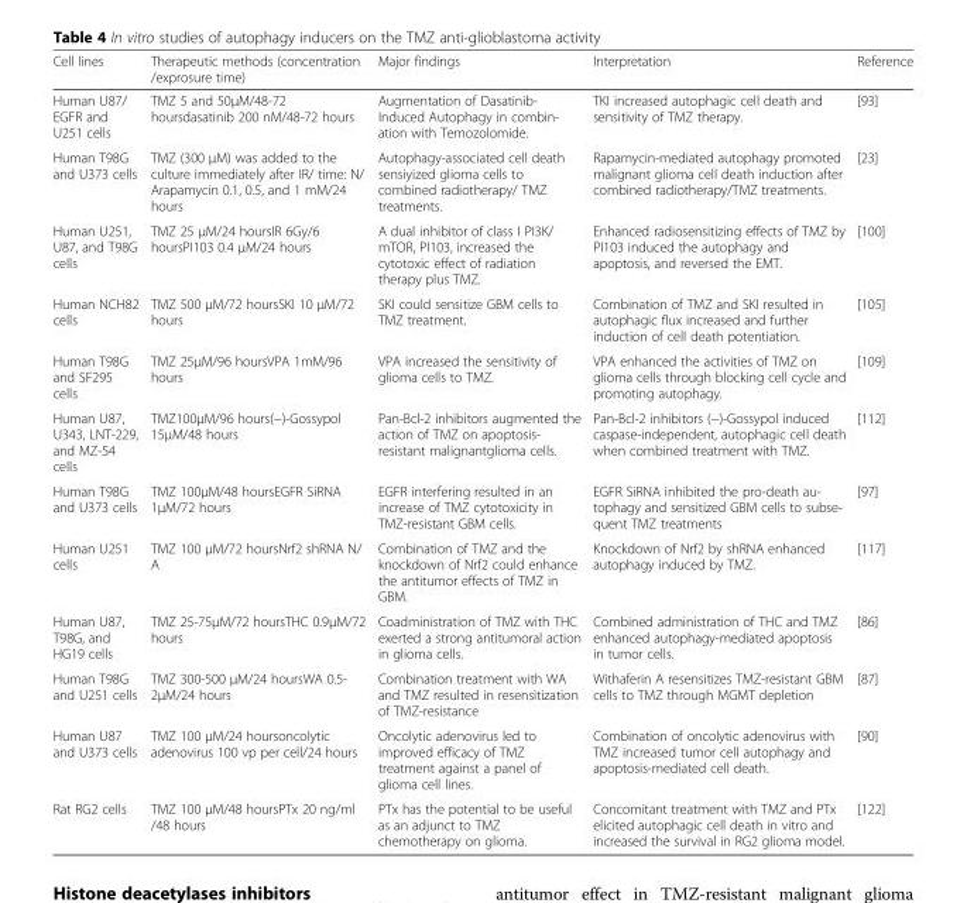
<table><thead><tr><td>Cell lines</td><td>Therapeutic methods (concentration /exprosure time)</td><td>Major findings</td><td>Interpretation</td><td>Reference</td></tr></thead><tbody><tr><td>Human U87/ EGFR and U251 cells</td><td>TMZ 5 and 50μM/48-72 hoursdasatinib 200 nM/48-72 hours</td><td>Augmentation of Dasatinib- Induced Autophagy in combin- ation with Temozolomide.</td><td>TKI increased autophagic cell death and sensitivity of TMZ therapy.</td><td>[93]</td></tr><tr><td>Human T98G and U373 cells</td><td>TMZ (300 μM) was added to the culture immediately after IR/ time: N/ Arapamycin 0.1, 0.5, and 1 mM/24 hours</td><td>Autophagy-associated cell death sensiyized glioma cells to combined radiotherapy/ TMZ treatments.</td><td>Rapamycin-mediated autophagy promoted malignant glioma cell death induction after combined radiotherapy/TMZ treatments.</td><td>[23]</td></tr><tr><td>Human U251, U87, and T98G cells</td><td>TMZ 25 μM/24 hoursIR 6Gy/6 hoursPI103 0.4 μM/24 hours</td><td>A dual inhibitor of class I PI3K/ mTOR, PI103, increased the cytotoxic effect of radiation therapy plus TMZ.</td><td>Enhanced radiosensitizing effects of TMZ by PI103 induced the autophagy and apoptosis, and reversed the EMT.</td><td>[100]</td></tr><tr><td>Human NCH82 cells</td><td>TMZ 500 μM/72 hoursSKI 10 μM/72 hours</td><td>SKI could sensitize GBM cells to TMZ treatment.</td><td>Combination of TMZ and SKI resulted in autophagic flux increased and further induction of cell death potentiation.</td><td>[105]</td></tr><tr><td>Human T98G and SF295 cells</td><td>TMZ 25μM/96 hoursVPA 1mM/96 hours</td><td>VPA increased the sensitivity of glioma cells to TMZ.</td><td>VPA enhanced the activities of TMZ on glioma cells through blocking cell cycle and promoting autophagy.</td><td>[109]</td></tr><tr><td>Human U87, U343, LNT-229, and MZ-54 cells</td><td>TMZ100μM/96 hours(−)-Gossypol 15μM/48 hours</td><td>Pan-Bcl-2 inhibitors augmented the action of TMZ on apoptosis- resistant malignantglioma cells.</td><td>Pan-Bcl-2 inhibitors (−)-Gossypol induced caspase-independent, autophagic cell death when combined treatment with TMZ.</td><td>[112]</td></tr><tr><td>Human T98G and U373 cells</td><td>TMZ 100μM/48 hoursEGFR SiRNA 1μM/72 hours</td><td>EGFR interfering resulted in an increase of TMZ cytotoxicity in TMZ-resistant GBM cells.</td><td>EGFR SiRNA inhibited the pro-death au- tophagy and sensitized GBM cells to subse- quent TMZ treatments</td><td>[97]</td></tr><tr><td>Human U251 cells</td><td>TMZ 100 μM/72 hoursNrf2 shRNA N/ A</td><td>Combination of TMZ and the knockdown of Nrf2 could enhance the antitumor effects of TMZ in GBM.</td><td>Knockdown of Nrf2 by shRNA enhanced autophagy induced by TMZ.</td><td>[117]</td></tr><tr><td>Human U87, T98G, and HG19 cells</td><td>TMZ 25-75μM/72 hoursTHC 0.9μM/72 hours</td><td>Coadministration of TMZ with THC exerted a strong antitumoral action in glioma cells.</td><td>Combined administration of THC and TMZ enhanced autophagy-mediated apoptosis in tumor cells.</td><td>[86]</td></tr><tr><td>Human T98G and U251 cells</td><td>TMZ 300-500 μM/24 hoursWA 0.5- 2μM/24 hours</td><td>Combination treatment with WA and TMZ resulted in resensitization of TMZ-resistance</td><td>Withaferin A resensitizes TMZ-resistant GBM cells to TMZ through MGMT depletion</td><td>[87]</td></tr><tr><td>Human U87 and U373 cells</td><td>TMZ 100 μM/24 hoursoncolytic adenovirus 100 vp per cell/24 hours</td><td>Oncolytic adenovirus led to improved efficacy of TMZ treatment against a panel of glioma cell lines.</td><td>Combination of oncolytic adenovirus with TMZ increased tumor cell autophagy and apoptosis-mediated cell death.</td><td>[90]</td></tr><tr><td>Rat RG2 cells</td><td>TMZ 100 μM/48 hoursPTx 20 ng/ml /48 hours</td><td>PTx has the potential to be useful as an adjunct to TMZ chemotherapy on glioma.</td><td>Concomitant treatment with TMZ and PTx elicited autophagic cell death in vitro and increased the survival in RG2 glioma model.</td><td>[122]</td></tr></tbody></table>